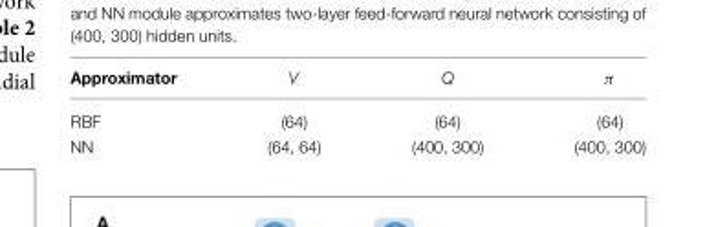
<table><thead><tr><td>Approximator</td><td>V</td><td>Q</td><td>π</td></tr></thead><tbody><tr><td>RBF</td><td>(64)</td><td>(64)</td><td>(64)</td></tr><tr><td>NN</td><td>(64, 64)</td><td>(400, 300)</td><td>(400, 300)</td></tr></tbody></table>